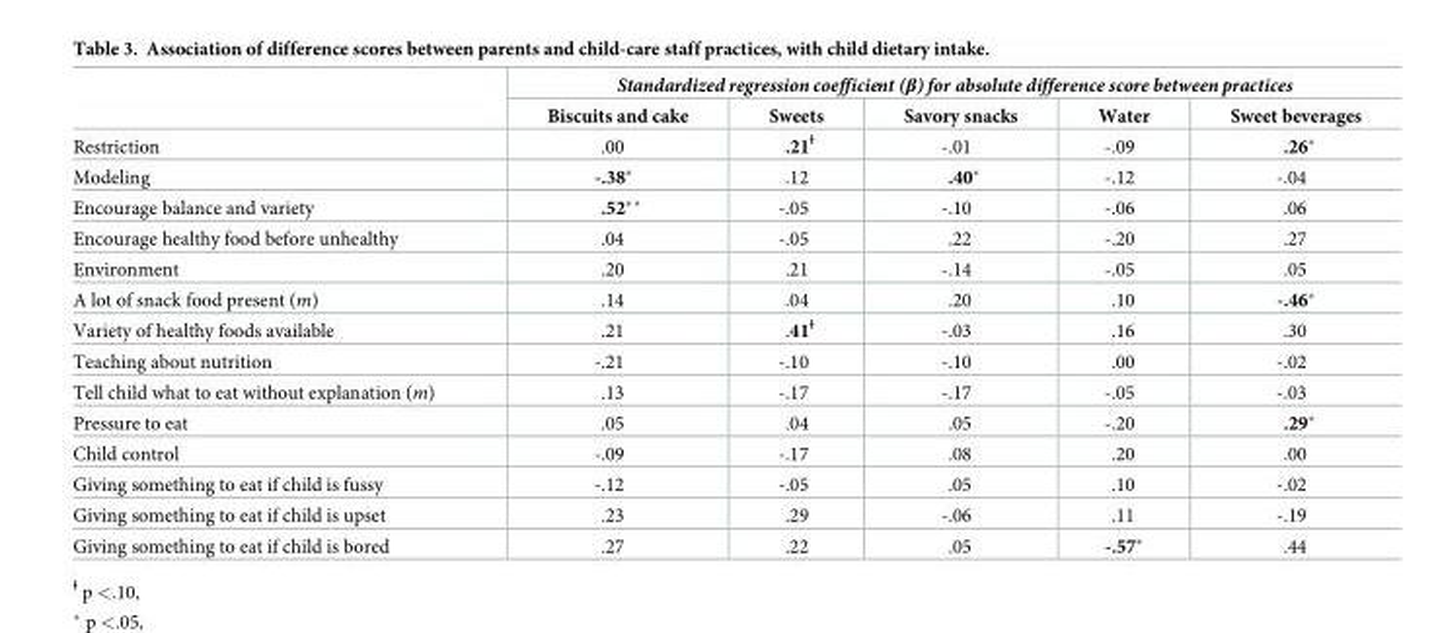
<table><thead><tr><td rowspan="2"></td><td colspan="5">Standardized regression coefficient (β) for absolute difference score between practices</td></tr><tr><td>Biscuits and cake</td><td>Sweets</td><td>Savory snacks</td><td>Water</td><td>Sweet beverages</td></tr></thead><tbody><tr><td>Restriction</td><td>.00</td><td>.21<sup>Ɨ</sup></td><td>-.01</td><td>-.09</td><td>.26*</td></tr><tr><td>Modeling</td><td>-.38*</td><td>.12</td><td>.40*</td><td>-.12</td><td>-.04</td></tr><tr><td>Encourage balance and variety</td><td>.52**</td><td>-.05</td><td>-.10</td><td>-.06</td><td>.06</td></tr><tr><td>Encourage healthy food before unhealthy</td><td>.04</td><td>-.05</td><td>.22</td><td>-.20</td><td>.27</td></tr><tr><td>Environment</td><td>.20</td><td>.21</td><td>-.14</td><td>-.05</td><td>.05</td></tr><tr><td>A lot of snack food present (m)</td><td>.14</td><td>.04</td><td>.20</td><td>.10</td><td>-.46*</td></tr><tr><td>Variety of healthy foods available</td><td>.21</td><td>.41<sup>Ɨ</sup></td><td>-.03</td><td>.16</td><td>.30</td></tr><tr><td>Teaching about nutrition</td><td>-.21</td><td>-.10</td><td>-.10</td><td>.00</td><td>-.02</td></tr><tr><td>Tell child what to eat without explanation (m)</td><td>.13</td><td>-.17</td><td>-.17</td><td>-.05</td><td>-.03</td></tr><tr><td>Pressure to eat</td><td>.05</td><td>.04</td><td>.05</td><td>-.20</td><td>.29*</td></tr><tr><td>Child control</td><td>-.09</td><td>-.17</td><td>.08</td><td>.20</td><td>.00</td></tr><tr><td>Giving something to eat if child is fussy</td><td>-.12</td><td>-.05</td><td>.05</td><td>.10</td><td>-.02</td></tr><tr><td>Giving something to eat if child is upset</td><td>.23</td><td>.29</td><td>-.06</td><td>.11</td><td>-.19</td></tr><tr><td>Giving something to eat if child is bored</td><td>.27</td><td>.22</td><td>.05</td><td>-.57*</td><td>.44</td></tr></tbody></table>